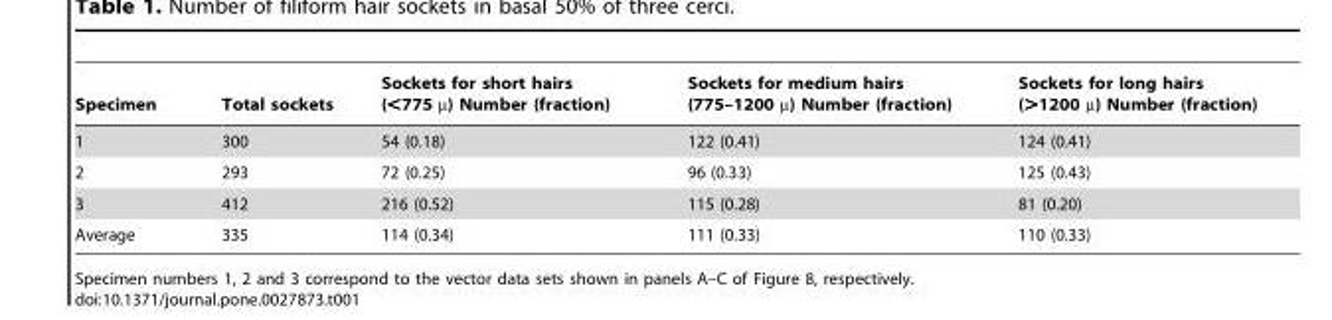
<table><thead><tr><td>Specimen</td><td>Total sockets</td><td>Sockets for short hairs (&lt;775 µ) Number (fraction)</td><td>Sockets for medium hairs (775–1200 µ) Number (fraction)</td><td>Sockets for long hairs (&gt;1200 µ) Number (fraction)</td></tr></thead><tbody><tr><td>1</td><td>300</td><td>54 (0.18)</td><td>122 (0.41)</td><td>124 (0.41)</td></tr><tr><td>2</td><td>293</td><td>72 (0.25)</td><td>96 (0.33)</td><td>125 (0.43)</td></tr><tr><td>3</td><td>412</td><td>216 (0.52)</td><td>115 (0.28)</td><td>81 (0.20)</td></tr><tr><td>Average</td><td>335</td><td>114 (0.34)</td><td>111 (0.33)</td><td>110 (0.33)</td></tr></tbody></table>